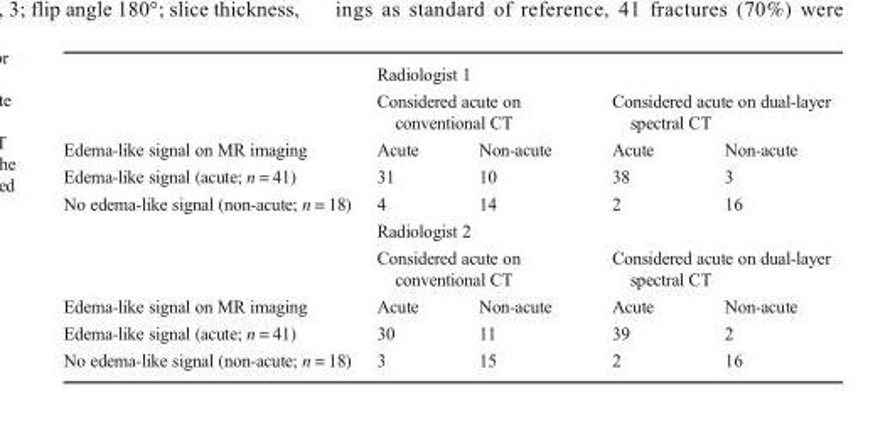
<table><thead><tr><td rowspan="3">Edema-like signal on MR imaging</td><td colspan="4">Radiologist 1</td></tr><tr><td colspan="2">Considered acute on conventional CT</td><td colspan="2">Considered acute on dual-layer spectral CT</td></tr><tr><td>Acute</td><td>Non-acute</td><td>Acute</td><td>Non-acute</td></tr></thead><tbody><tr><td>Edema-like signal (acute; n = 41)</td><td>31</td><td>10</td><td>38</td><td>3</td></tr><tr><td rowspan="3">No edema-like signal (non-acute; n = 18)</td><td>4</td><td>14</td><td>2</td><td>16</td></tr><tr><td colspan="4">Radiologist 2</td></tr><tr><td colspan="2">Considered acute on conventional CT</td><td colspan="2">Considered acute on dual-layer spectral CT</td></tr><tr><td>Edema-like signal on MR imaging</td><td>Acute</td><td>Non-acute</td><td>Acute</td><td>Non-acute</td></tr><tr><td>Edema-like signal (acute; n = 41)</td><td>30</td><td>11</td><td>39</td><td>2</td></tr><tr><td>No edema-like signal (non-acute; n = 18)</td><td>3</td><td>15</td><td>2</td><td>16</td></tr></tbody></table>